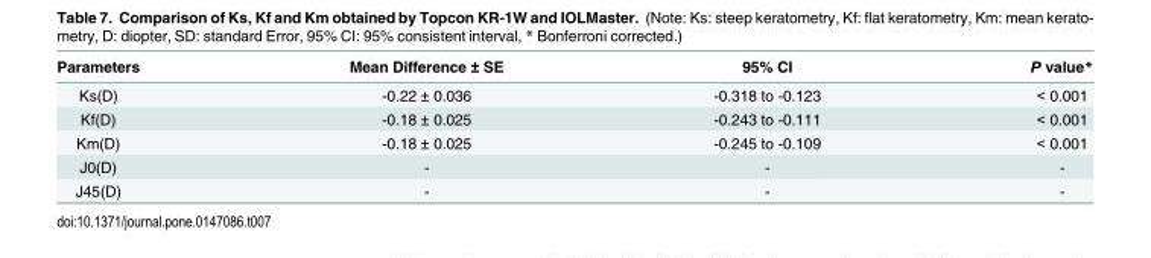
<table><thead><tr><td>Parameters</td><td>Mean Difference ± SE</td><td>95% CI</td><td>P value*</td></tr></thead><tbody><tr><td>Ks(D)</td><td>-0.22 ± 0.036</td><td>-0.318 to -0.123</td><td>&lt; 0.001</td></tr><tr><td>Kf(D)</td><td>-0.18 ± 0.025</td><td>-0.243 to -0.111</td><td>&lt; 0.001</td></tr><tr><td>Km(D)</td><td>-0.18 ± 0.025</td><td>-0.245 to -0.109</td><td>&lt; 0.001</td></tr><tr><td>J0(D)</td><td>-</td><td>-</td><td>-</td></tr><tr><td>J45(D)</td><td>-</td><td>-</td><td>-</td></tr></tbody></table>